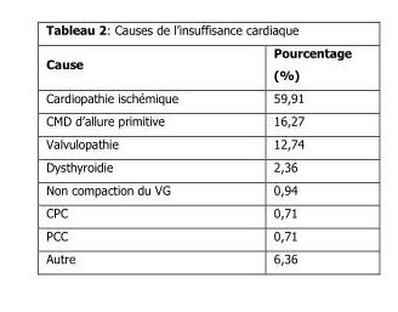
<table><thead><tr><td>Cause</td><td>Pourcentage (%)</td></tr></thead><tbody><tr><td>Cardiopathie ischémique</td><td>59,91</td></tr><tr><td>CMD d’allure primitive</td><td>16,27</td></tr><tr><td>Valvulopathie</td><td>12,74</td></tr><tr><td>Dysthyroidie</td><td>2,36</td></tr><tr><td>Non compaction du VG</td><td>0,94</td></tr><tr><td>CPC</td><td>0,71</td></tr><tr><td>PCC</td><td>0,71</td></tr><tr><td>Autre</td><td>6,36</td></tr></tbody></table>